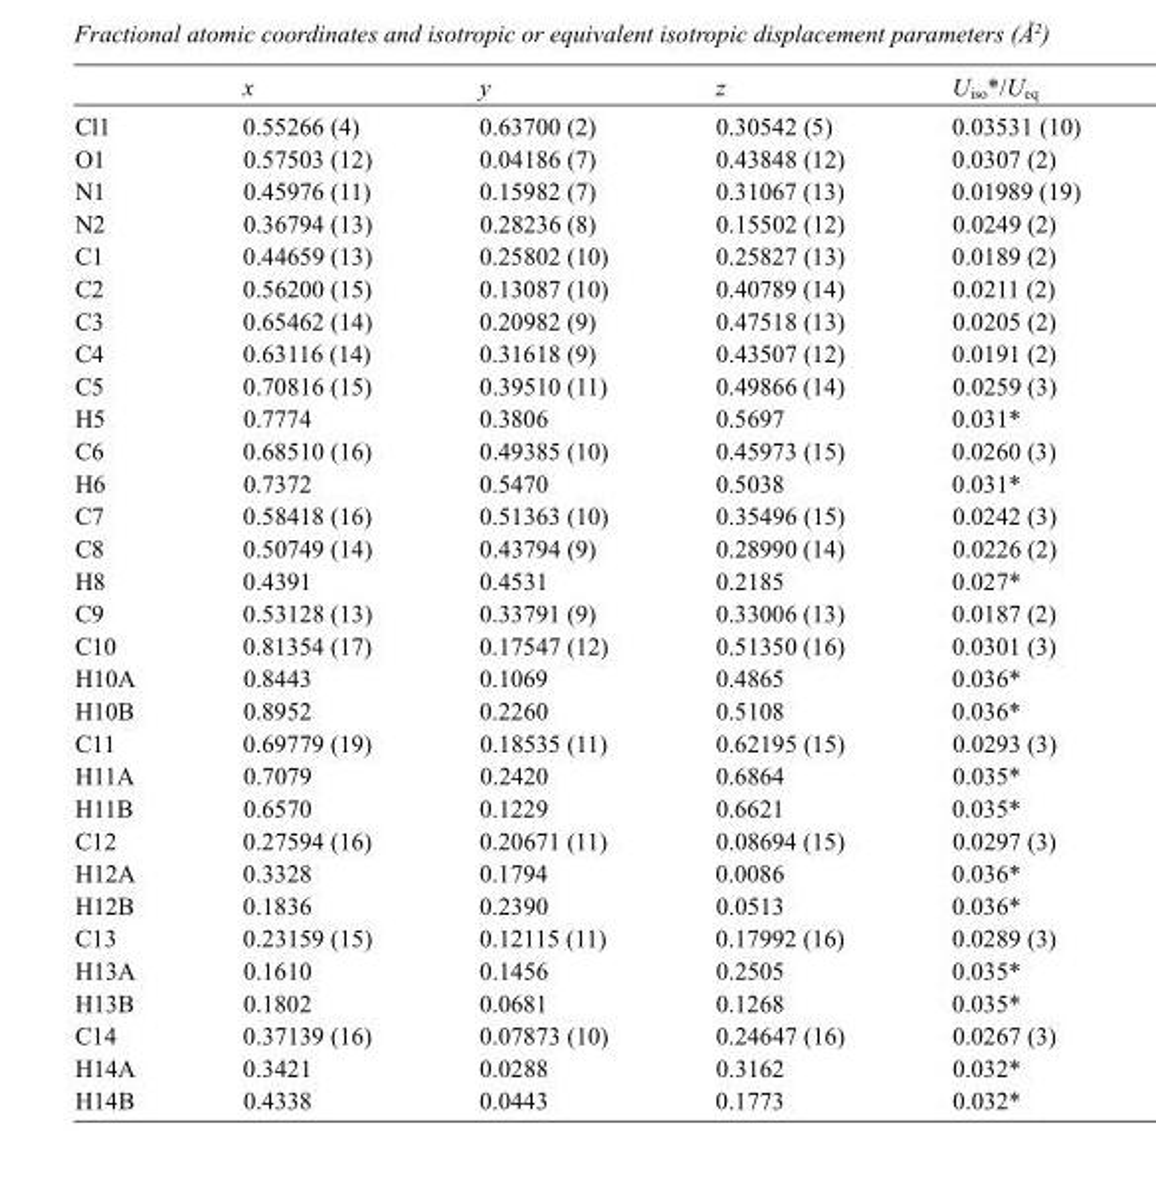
<table><thead><tr><td></td><td>x</td><td>y</td><td>z</td><td>U<sub>iso</sub>*/U<sub>eq</sub></td></tr></thead><tbody><tr><td>Cl1</td><td>0.55266 (4)</td><td>0.63700 (2)</td><td>0.30542 (5)</td><td>0.03531 (10)</td></tr><tr><td>O1</td><td>0.57503 (12)</td><td>0.04186 (7)</td><td>0.43848 (12)</td><td>0.0307 (2)</td></tr><tr><td>N1</td><td>0.45976 (11)</td><td>0.15982 (7)</td><td>0.31067 (13)</td><td>0.01989 (19)</td></tr><tr><td>N2</td><td>0.36794 (13)</td><td>0.28236 (8)</td><td>0.15502 (12)</td><td>0.0249 (2)</td></tr><tr><td>C1</td><td>0.44659 (13)</td><td>0.25802 (10)</td><td>0.25827 (13)</td><td>0.0189 (2)</td></tr><tr><td>C2</td><td>0.56200 (15)</td><td>0.13087 (10)</td><td>0.40789 (14)</td><td>0.0211 (2)</td></tr><tr><td>C3</td><td>0.65462 (14)</td><td>0.20982 (9)</td><td>0.47518 (13)</td><td>0.0205 (2)</td></tr><tr><td>C4</td><td>0.63116 (14)</td><td>0.31618 (9)</td><td>0.43507 (12)</td><td>0.0191 (2)</td></tr><tr><td>C5</td><td>0.70816 (15)</td><td>0.39510 (11)</td><td>0.49866 (14)</td><td>0.0259 (3)</td></tr><tr><td>H5</td><td>0.7774</td><td>0.3806</td><td>0.5697</td><td>0.031*</td></tr><tr><td>C6</td><td>0.68510 (16)</td><td>0.49385 (10)</td><td>0.45973 (15)</td><td>0.0260 (3)</td></tr><tr><td>H6</td><td>0.7372</td><td>0.5470</td><td>0.5038</td><td>0.031*</td></tr><tr><td>C7</td><td>0.58418 (16)</td><td>0.51363 (10)</td><td>0.35496 (15)</td><td>0.0242 (3)</td></tr><tr><td>C8</td><td>0.50749 (14)</td><td>0.43794 (9)</td><td>0.28990 (14)</td><td>0.0226 (2)</td></tr><tr><td>H8</td><td>0.4391</td><td>0.4531</td><td>0.2185</td><td>0.027*</td></tr><tr><td>C9</td><td>0.53128 (13)</td><td>0.33791 (9)</td><td>0.33006 (13)</td><td>0.0187 (2)</td></tr><tr><td>C10</td><td>0.81354 (17)</td><td>0.17547 (12)</td><td>0.51350 (16)</td><td>0.0301 (3)</td></tr><tr><td>H10A</td><td>0.8443</td><td>0.1069</td><td>0.4865</td><td>0.036*</td></tr><tr><td>H10B</td><td>0.8952</td><td>0.2260</td><td>0.5108</td><td>0.036*</td></tr><tr><td>C11</td><td>0.69779 (19)</td><td>0.18535 (11)</td><td>0.62195 (15)</td><td>0.0293 (3)</td></tr><tr><td>H11A</td><td>0.7079</td><td>0.2420</td><td>0.6864</td><td>0.035*</td></tr><tr><td>H11B</td><td>0.6570</td><td>0.1229</td><td>0.6621</td><td>0.035*</td></tr><tr><td>C12</td><td>0.27594 (16)</td><td>0.20671 (11)</td><td>0.08694 (15)</td><td>0.0297 (3)</td></tr><tr><td>H12A</td><td>0.3328</td><td>0.1794</td><td>0.0086</td><td>0.036*</td></tr><tr><td>H12B</td><td>0.1836</td><td>0.2390</td><td>0.0513</td><td>0.036*</td></tr><tr><td>C13</td><td>0.23159 (15)</td><td>0.12115 (11)</td><td>0.17992 (16)</td><td>0.0289 (3)</td></tr><tr><td>H13A</td><td>0.1610</td><td>0.1456</td><td>0.2505</td><td>0.035*</td></tr><tr><td>H13B</td><td>0.1802</td><td>0.0681</td><td>0.1268</td><td>0.035*</td></tr><tr><td>C14</td><td>0.37139 (16)</td><td>0.07873 (10)</td><td>0.24647 (16)</td><td>0.0267 (3)</td></tr><tr><td>H14A</td><td>0.3421</td><td>0.0288</td><td>0.3162</td><td>0.032*</td></tr><tr><td>H14B</td><td>0.4338</td><td>0.0443</td><td>0.1773</td><td>0.032*</td></tr></tbody></table>